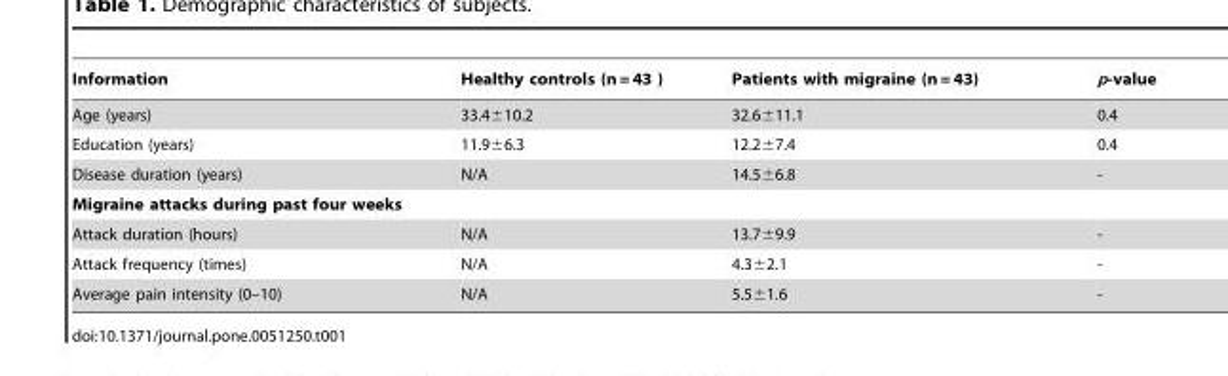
<table><thead><tr><td>Information</td><td>Healthy controls (n = 43 )</td><td>Patients with migraine (n = 43)</td><td>p-value</td></tr></thead><tbody><tr><td>Age (years)</td><td>33.4±10.2</td><td>32.6±11.1</td><td>0.4</td></tr><tr><td>Education (years)</td><td>11.9±6.3</td><td>12.2±7.4</td><td>0.4</td></tr><tr><td>Disease duration (years)</td><td>N/A</td><td>14.5±6.8</td><td>-</td></tr><tr><td colspan="4">Migraine attacks during past four weeks</td></tr><tr><td>Attack duration (hours)</td><td>N/A</td><td>13.7±9.9</td><td>-</td></tr><tr><td>Attack frequency (times)</td><td>N/A</td><td>4.3±2.1</td><td>-</td></tr><tr><td>Average pain intensity (0–10)</td><td>N/A</td><td>5.5±1.6</td><td>-</td></tr></tbody></table>